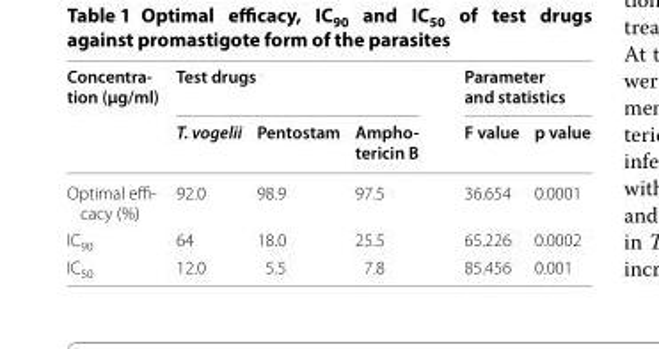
<table><thead><tr><td rowspan="2">Concentra‑ tion (μg/ml)</td><td colspan="3">Test drugs</td><td colspan="2">Parameter and statistics</td></tr><tr><td>T. vogelii</td><td>Pentostam</td><td>Ampho‑ tericin B</td><td>F value</td><td>p value</td></tr></thead><tbody><tr><td>Optimal effi‑ cacy (%)</td><td>92.0</td><td>98.9</td><td>97.5</td><td>36.654</td><td>0.0001</td></tr><tr><td>IC<sub>90</sub></td><td>64</td><td>18.0</td><td>25.5</td><td>65.226</td><td>0.0002</td></tr><tr><td>IC<sub>50</sub></td><td>12.0</td><td>5.5</td><td>7.8</td><td>85.456</td><td>0.001</td></tr></tbody></table>